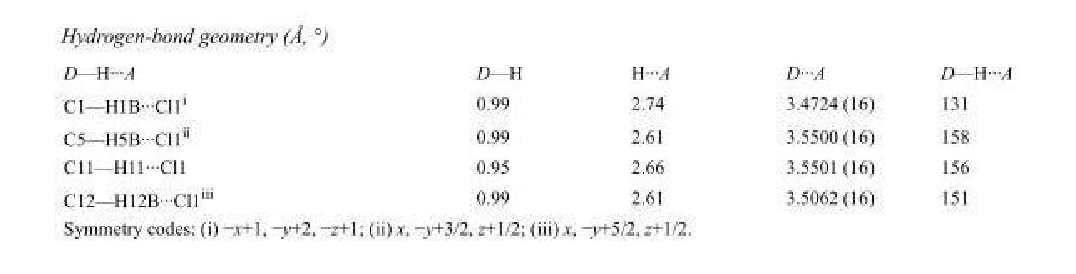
<table><tbody><tr><td>D—H···A</td><td>D—H</td><td>H···A</td><td>D···A</td><td>D—H···A</td></tr><tr><td>C1—H1B···Cl1<sup>i</sup></td><td>0.99</td><td>2.74</td><td>3.4724 (16)</td><td>131</td></tr><tr><td>C5—H5B···Cl1<sup>ii</sup></td><td>0.99</td><td>2.61</td><td>3.5500 (16)</td><td>158</td></tr><tr><td>C11—H11···Cl1</td><td>0.95</td><td>2.66</td><td>3.5501 (16)</td><td>156</td></tr><tr><td>C12—H12B···Cl1<sup>iii</sup></td><td>0.99</td><td>2.61</td><td>3.5062 (16)</td><td>151</td></tr></tbody></table>